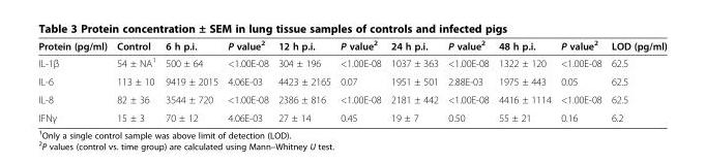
<table><thead><tr><td>Protein (pg/ml)</td><td>Control</td><td>6 h p.i.</td><td>P value<sup>2</sup></td><td>12 h p.i.</td><td>P value<sup>2</sup></td><td>24 h p.i.</td><td>P value<sup>2</sup></td><td>48 h p.i.</td><td>P value<sup>2</sup></td><td>LOD (pg/ml)</td></tr></thead><tbody><tr><td>IL-1β</td><td>54 ± NA<sup>1</sup></td><td>500 ± 64</td><td>&lt;1.00E-08</td><td>304 ± 196</td><td>&lt;1.00E-08</td><td>1037 ± 363</td><td>&lt;1.00E-08</td><td>1322 ± 120</td><td>&lt;1.00E-08</td><td>62.5</td></tr><tr><td>IL-6</td><td>113 ± 10</td><td>9419 ± 2015</td><td>4.06E-03</td><td>4423 ± 2165</td><td>0.07</td><td>1951 ± 501</td><td>2.88E-03</td><td>1975 ± 443</td><td>0.05</td><td>62.5</td></tr><tr><td>IL-8</td><td>82 ± 36</td><td>3544 ± 720</td><td>&lt;1.00E-08</td><td>2386 ± 816</td><td>&lt;1.00E-08</td><td>2181 ± 442</td><td>&lt;1.00E-08</td><td>4416 ± 1114</td><td>&lt;1.00E-08</td><td>62.5</td></tr><tr><td>IFNγ</td><td>15 ± 3</td><td>70 ± 12</td><td>4.06E-03</td><td>27 ± 14</td><td>0.45</td><td>19 ± 7</td><td>0.50</td><td>55 ± 21</td><td>0.16</td><td>6.2</td></tr></tbody></table>